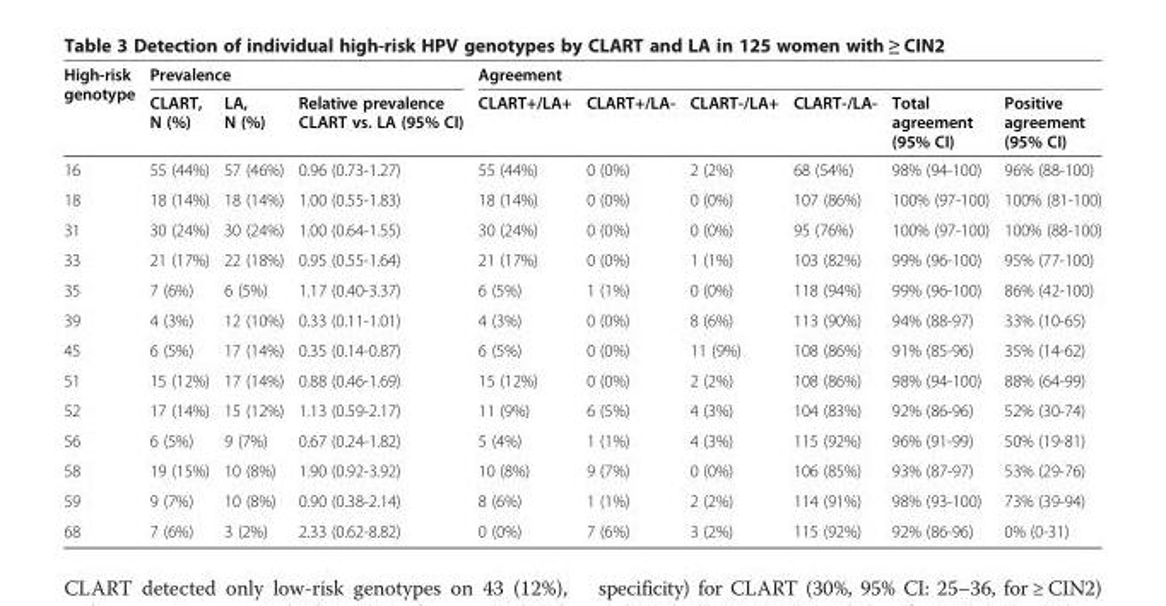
<table><thead><tr><td rowspan="2">High-risk genotype</td><td colspan="3">Prevalence</td><td colspan="6">Agreement</td></tr><tr><td>CLART, N (%)</td><td>LA, N (%)</td><td>Relative prevalence CLART vs. LA (95% CI)</td><td>CLART+/LA+</td><td>CLART+/LA-</td><td>CLART-/LA+</td><td>CLART-/LA-</td><td>Total agreement (95% CI)</td><td>Positive agreement (95% CI)</td></tr></thead><tbody><tr><td>16</td><td>55 (44%)</td><td>57 (46%)</td><td>0.96 (0.73-1.27)</td><td>55 (44%)</td><td>0 (0%)</td><td>2 (2%)</td><td>68 (54%)</td><td>98% (94-100)</td><td>96% (88-100)</td></tr><tr><td>18</td><td>18 (14%)</td><td>18 (14%)</td><td>1.00 (0.55-1.83)</td><td>18 (14%)</td><td>0 (0%)</td><td>0 (0%)</td><td>107 (86%)</td><td>100% (97-100)</td><td>100% (81-100)</td></tr><tr><td>31</td><td>30 (24%)</td><td>30 (24%)</td><td>1.00 (0.64-1.55)</td><td>30 (24%)</td><td>0 (0%)</td><td>0 (0%)</td><td>95 (76%)</td><td>100% (97-100)</td><td>100% (88-100)</td></tr><tr><td>33</td><td>21 (17%)</td><td>22 (18%)</td><td>0.95 (0.55-1.64)</td><td>21 (17%)</td><td>0 (0%)</td><td>1 (1%)</td><td>103 (82%)</td><td>99% (96-100)</td><td>95% (77-100)</td></tr><tr><td>35</td><td>7 (6%)</td><td>6 (5%)</td><td>1.17 (0.40-3.37)</td><td>6 (5%)</td><td>1 (1%)</td><td>0 (0%)</td><td>118 (94%)</td><td>99% (96-100)</td><td>86% (42-100)</td></tr><tr><td>39</td><td>4 (3%)</td><td>12 (10%)</td><td>0.33 (0.11-1.01)</td><td>4 (3%)</td><td>0 (0%)</td><td>8 (6%)</td><td>113 (90%)</td><td>94% (88-97)</td><td>33% (10-65)</td></tr><tr><td>45</td><td>6 (5%)</td><td>17 (14%)</td><td>0.35 (0.14-0.87)</td><td>6 (5%)</td><td>0 (0%)</td><td>11 (9%)</td><td>108 (86%)</td><td>91% (85-96)</td><td>35% (14-62)</td></tr><tr><td>51</td><td>15 (12%)</td><td>17 (14%)</td><td>0.88 (0.46-1.69)</td><td>15 (12%)</td><td>0 (0%)</td><td>2 (2%)</td><td>108 (86%)</td><td>98% (94-100)</td><td>88% (64-99)</td></tr><tr><td>52</td><td>17 (14%)</td><td>15 (12%)</td><td>1.13 (0.59-2.17)</td><td>11 (9%)</td><td>6 (5%)</td><td>4 (3%)</td><td>104 (83%)</td><td>92% (86-96)</td><td>52% (30-74)</td></tr><tr><td>56</td><td>6 (5%)</td><td>9 (7%)</td><td>0.67 (0.24-1.82)</td><td>5 (4%)</td><td>1 (1%)</td><td>4 (3%)</td><td>115 (92%)</td><td>96% (91-99)</td><td>50% (19-81)</td></tr><tr><td>58</td><td>19 (15%)</td><td>10 (8%)</td><td>1.90 (0.92-3.92)</td><td>10 (8%)</td><td>9 (7%)</td><td>0 (0%)</td><td>106 (85%)</td><td>93% (87-97)</td><td>53% (29-76)</td></tr><tr><td>59</td><td>9 (7%)</td><td>10 (8%)</td><td>0.90 (0.38-2.14)</td><td>8 (6%)</td><td>1 (1%)</td><td>2 (2%)</td><td>114 (91%)</td><td>98% (93-100)</td><td>73% (39-94)</td></tr><tr><td>68</td><td>7 (6%)</td><td>3 (2%)</td><td>2.33 (0.62-8.82)</td><td>0 (0%)</td><td>7 (6%)</td><td>3 (2%)</td><td>115 (92%)</td><td>92% (86-96)</td><td>0% (0-31)</td></tr></tbody></table>